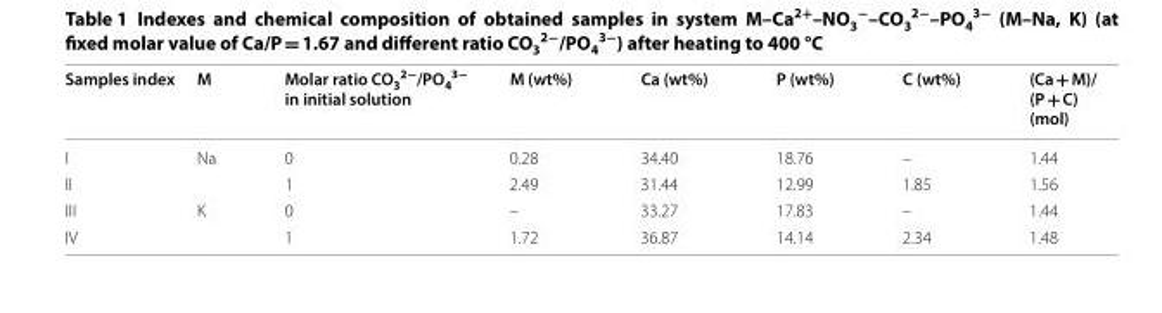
<table><thead><tr><td>Samples index</td><td>M</td><td>Molar ratio CO<sub>3</sub> <sup>2−</sup>/PO<sub>4</sub> <sup>3−</sup> in initial solution</td><td>M (wt%)</td><td>Ca (wt%)</td><td>P (wt%)</td><td>C (wt%)</td><td>(Ca + M)/ (P + C) (mol)</td></tr></thead><tbody><tr><td>I</td><td rowspan="2">Na</td><td>0</td><td>0.28</td><td>34.40</td><td>18.76</td><td>–</td><td>1.44</td></tr><tr><td>II</td><td>1</td><td>2.49</td><td>31.44</td><td>12.99</td><td>1.85</td><td>1.56</td></tr><tr><td>III</td><td rowspan="2">K</td><td>0</td><td>–</td><td>33.27</td><td>17.83</td><td>–</td><td>1.44</td></tr><tr><td>IV</td><td>1</td><td>1.72</td><td>36.87</td><td>14.14</td><td>2.34</td><td>1.48</td></tr></tbody></table>